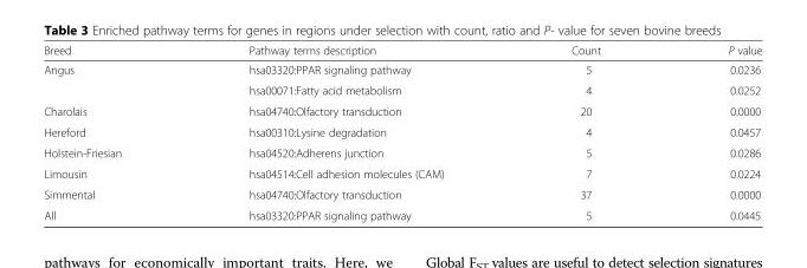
<table><thead><tr><td>Breed</td><td>Pathway terms description</td><td>Count</td><td>P value</td></tr></thead><tbody><tr><td rowspan="2">Angus</td><td>hsa03320:PPAR signaling pathway</td><td>5</td><td>0.0236</td></tr><tr><td>hsa00071:Fatty acid metabolism</td><td>4</td><td>0.0252</td></tr><tr><td>Charolais</td><td>hsa04740:Olfactory transduction</td><td>20</td><td>0.0000</td></tr><tr><td>Hereford</td><td>hsa00310:Lysine degradation</td><td>4</td><td>0.0457</td></tr><tr><td>Holstein-Friesian</td><td>hsa04520:Adherens junction</td><td>5</td><td>0.0286</td></tr><tr><td>Limousin</td><td>hsa04514:Cell adhesion molecules (CAM)</td><td>7</td><td>0.0224</td></tr><tr><td>Simmental</td><td>hsa04740:Olfactory transduction</td><td>37</td><td>0.0000</td></tr><tr><td>All</td><td>hsa03320:PPAR signaling pathway</td><td>5</td><td>0.0445</td></tr></tbody></table>